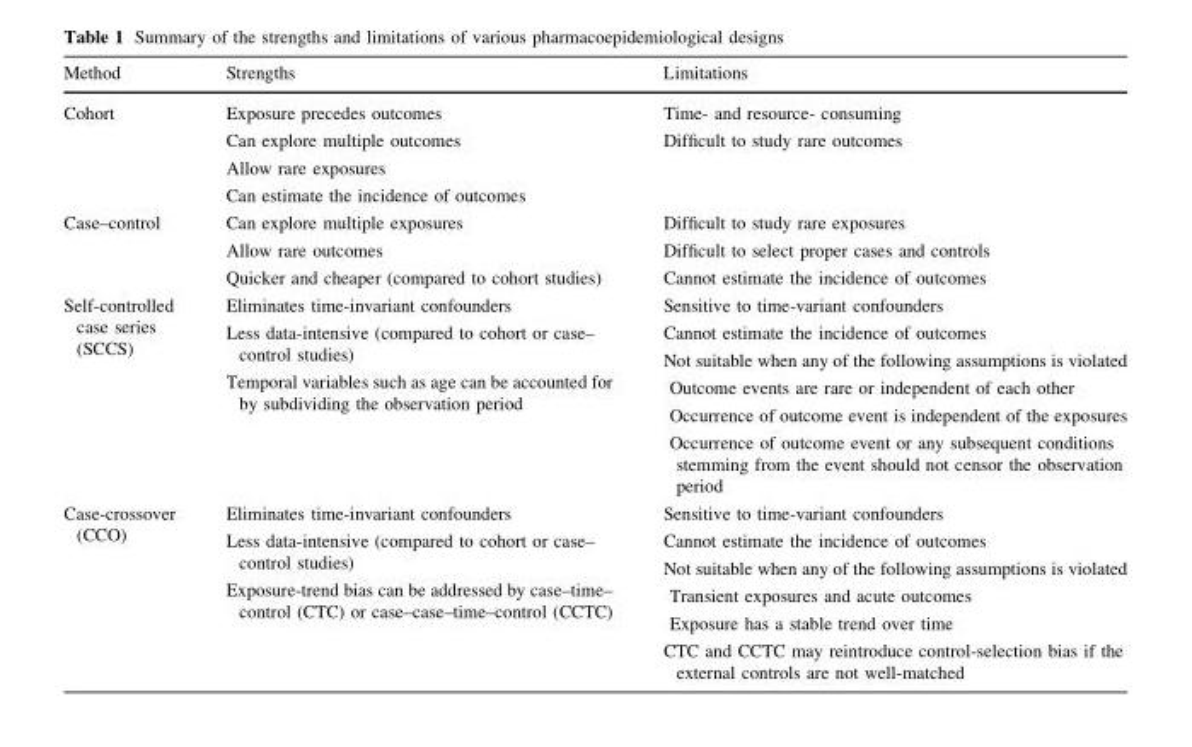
<table><thead><tr><td>Method</td><td>Strengths</td><td>Limitations</td></tr></thead><tbody><tr><td>Cohort</td><td>Exposure precedes outcomes Can explore multiple outcomes Allow rare exposures Can estimate the incidence of outcomes</td><td>Time- and resource- consuming Difficult to study rare outcomes</td></tr><tr><td>Case–control</td><td>Can explore multiple exposures Allow rare outcomes Quicker and cheaper (compared to cohort studies)</td><td>Difficult to study rare exposures Difficult to select proper cases and controls Cannot estimate the incidence of outcomes</td></tr><tr><td>Self-controlled case series (SCCS)</td><td>Eliminates time-invariant confounders Less data-intensive (compared to cohort or case– control studies) Temporal variables such as age can be accounted for by subdividing the observation period</td><td>Sensitive to time-variant confounders Cannot estimate the incidence of outcomes Not suitable when any of the following assumptions is violated Outcome events are rare or independent of each other Occurrence of outcome event is independent of the exposures Occurrence of outcome event or any subsequent conditions stemming from the event should not censor the observation period</td></tr><tr><td>Case-crossover (CCO)</td><td>Eliminates time-invariant confounders Less data-intensive (compared to cohort or case– control studies) Exposure-trend bias can be addressed by case–time– control (CTC) or case–case–time–control (CCTC)</td><td>Sensitive to time-variant confounders Cannot estimate the incidence of outcomes Not suitable when any of the following assumptions is violated Transient exposures and acute outcomes Exposure has a stable trend over time CTC and CCTC may reintroduce control-selection bias if the external controls are not well-matched</td></tr></tbody></table>